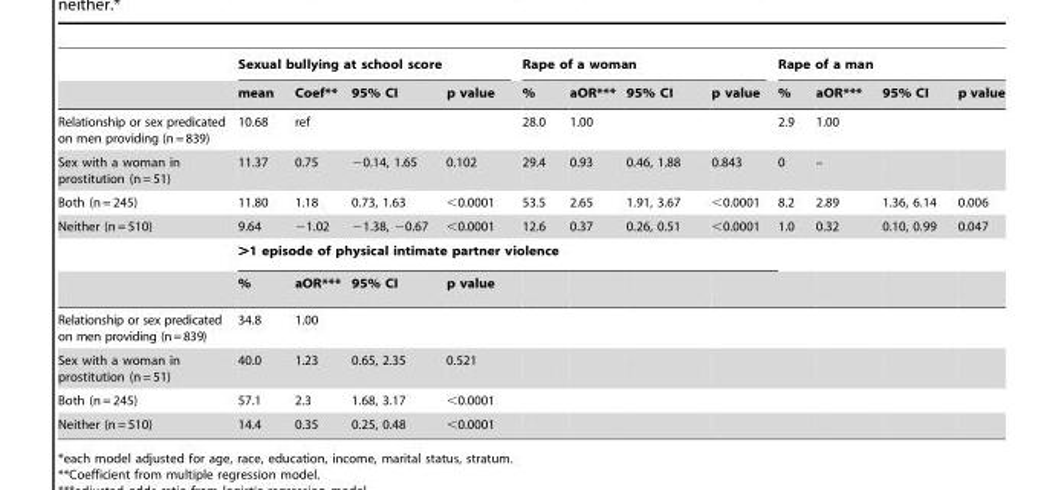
<table><thead><tr><td rowspan="2"></td><td colspan="4">Sexual bullying at school score</td><td colspan="4">Rape of a woman</td><td colspan="4">Rape of a man</td></tr><tr><td>mean</td><td>Coef**</td><td>95% CI</td><td>p value</td><td>%</td><td>aOR***</td><td>95% CI</td><td>p value</td><td>%</td><td>aOR***</td><td>95% CI</td><td>p value</td></tr></thead><tbody><tr><td>Relationship or sex predicated on men providing (n= 839)</td><td>10.68</td><td>ref</td><td></td><td></td><td>28.0</td><td>1.00</td><td></td><td></td><td>2.9</td><td>1.00</td><td></td><td></td></tr><tr><td>Sex with a woman in prostitution (n = 51)</td><td>11.37</td><td>0.75</td><td>−0.14, 1.65</td><td>0.102</td><td>29.4</td><td>0.93</td><td>0.46, 1.88</td><td>0.843</td><td>0</td><td>–</td><td></td><td></td></tr><tr><td>Both (n = 245)</td><td>11.80</td><td>1.18</td><td>0.73, 1.63</td><td>&lt;0.0001</td><td>53.5</td><td>2.65</td><td>1.91, 3.67</td><td>&lt;0.0001</td><td>8.2</td><td>2.89</td><td>1.36, 6.14</td><td>0.006</td></tr><tr><td rowspan="3">Neither (n = 510)</td><td>9.64</td><td>−1.02</td><td>−1.38, −0.67</td><td>&lt;0.0001</td><td>12.6</td><td>0.37</td><td>0.26, 0.51</td><td>&lt;0.0001</td><td>1.0</td><td>0.32</td><td>0.10, 0.99</td><td>0.047</td></tr><tr><td colspan="8">&gt;1 episode of physical intimate partner violence</td><td></td><td></td><td></td><td></td></tr><tr><td>%</td><td>aOR***</td><td>95% CI</td><td>p value</td><td></td><td></td><td></td><td></td><td></td><td></td><td></td><td></td></tr><tr><td>Relationship or sex predicated on men providing (n=839)</td><td>34.8</td><td>1.00</td><td></td><td></td><td></td><td></td><td></td><td></td><td></td><td></td><td></td><td></td></tr><tr><td>Sex with a woman in prostitution (n = 51)</td><td>40.0</td><td>1.23</td><td>0.65, 2.35</td><td>0.521</td><td></td><td></td><td></td><td></td><td></td><td></td><td></td><td></td></tr><tr><td>Both (n = 245)</td><td>57.1</td><td>2.3</td><td>1.68, 3.17</td><td>&lt;0.0001</td><td></td><td></td><td></td><td></td><td></td><td></td><td></td><td></td></tr><tr><td>Neither (n = 510)</td><td>14.4</td><td>0.35</td><td>0.25, 0.48</td><td>&lt;0.0001</td><td></td><td></td><td></td><td></td><td></td><td></td><td></td><td></td></tr></tbody></table>